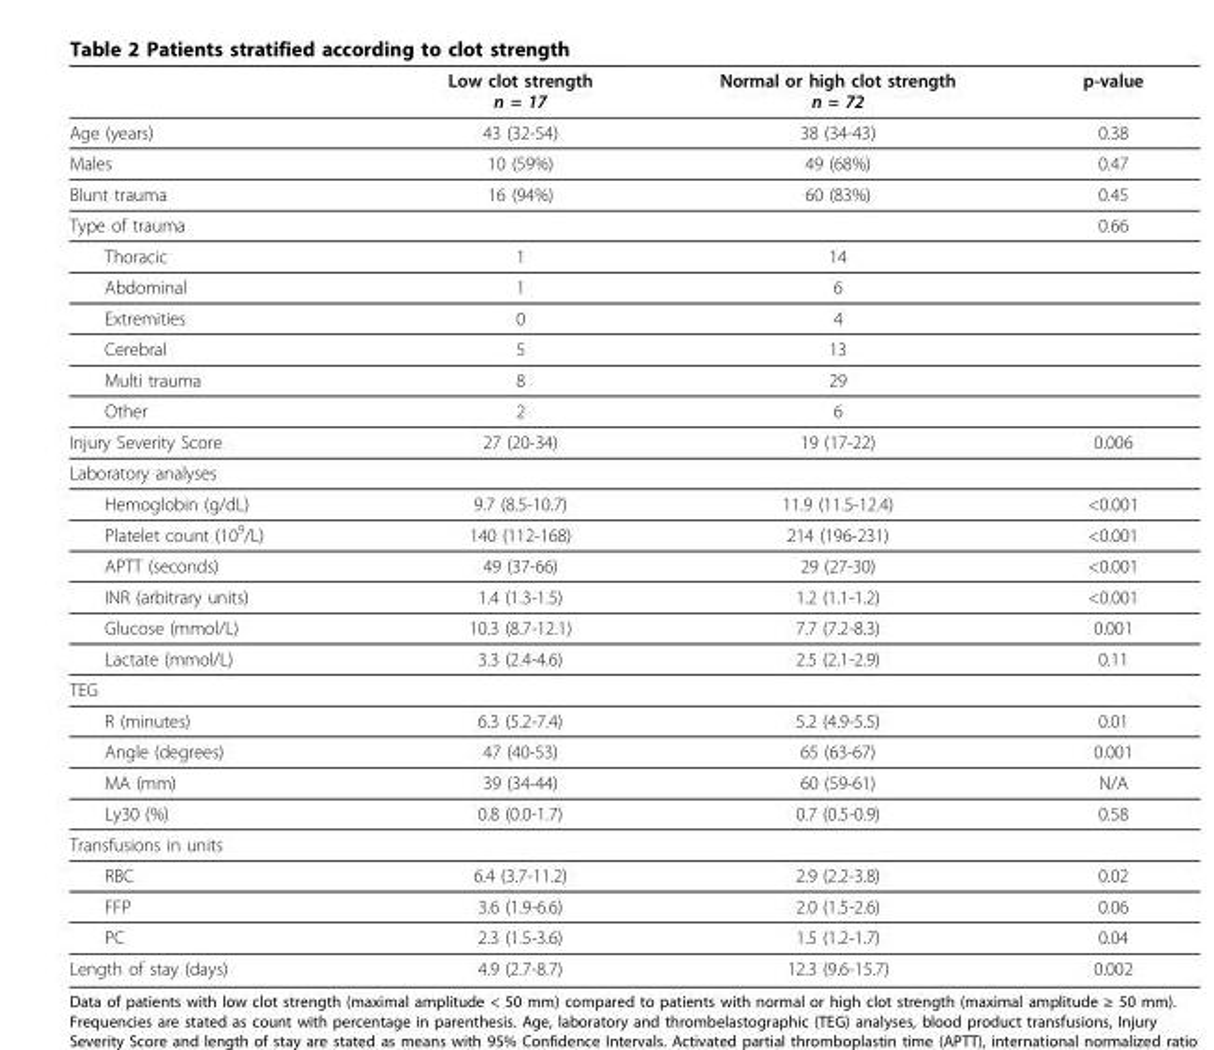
<table><thead><tr><td></td><td>Low clot strength n = 17</td><td>Normal or high clot strength n = 72</td><td>p-value</td></tr></thead><tbody><tr><td>Age (years)</td><td>43 (32-54)</td><td>38 (34-43)</td><td>0.38</td></tr><tr><td>Males</td><td>10 (59%)</td><td>49 (68%)</td><td>0.47</td></tr><tr><td>Blunt trauma</td><td>16 (94%)</td><td>60 (83%)</td><td>0.45</td></tr><tr><td>Type of trauma</td><td></td><td></td><td>0.66</td></tr><tr><td>Thoracic</td><td>1</td><td>14</td><td></td></tr><tr><td>Abdominal</td><td>1</td><td>6</td><td></td></tr><tr><td>Extremities</td><td>0</td><td>4</td><td></td></tr><tr><td>Cerebral</td><td>5</td><td>13</td><td></td></tr><tr><td>Multi trauma</td><td>8</td><td>29</td><td></td></tr><tr><td>Other</td><td>2</td><td>6</td><td></td></tr><tr><td>Injury Severity Score</td><td>27 (20-34)</td><td>19 (17-22)</td><td>0.006</td></tr><tr><td colspan="4">Laboratory analyses</td></tr><tr><td>Hemoglobin (g/dL)</td><td>9.7 (8.5-10.7)</td><td>11.9 (11.5-12.4)</td><td>&lt;0.001</td></tr><tr><td>Platelet count (10<sup>9</sup>/L)</td><td>140 (112-168)</td><td>214 (196-231)</td><td>&lt;0.001</td></tr><tr><td>APTT (seconds)</td><td>49 (37-66)</td><td>29 (27-30)</td><td>&lt;0.001</td></tr><tr><td>INR (arbitrary units)</td><td>1.4 (1.3-1.5)</td><td>1.2 (1.1-1.2)</td><td>&lt;0.001</td></tr><tr><td>Glucose (mmol/L)</td><td>10.3 (8.7-12.1)</td><td>7.7 (7.2-8.3)</td><td>0.001</td></tr><tr><td>Lactate (mmol/L)</td><td>3.3 (2.4-4.6)</td><td>2.5 (2.1-2.9)</td><td>0.11</td></tr><tr><td colspan="4">TEG</td></tr><tr><td>R (minutes)</td><td>6.3 (5.2-7.4)</td><td>5.2 (4.9-5.5)</td><td>0.01</td></tr><tr><td>Angle (degrees)</td><td>47 (40-53)</td><td>65 (63-67)</td><td>0.001</td></tr><tr><td>MA (mm)</td><td>39 (34-44)</td><td>60 (59-61)</td><td>N/A</td></tr><tr><td>Ly30 (%)</td><td>0.8 (0.0-1.7)</td><td>0.7 (0.5-0.9)</td><td>0.58</td></tr><tr><td colspan="4">Transfusions in units</td></tr><tr><td>RBC</td><td>6.4 (3.7-11.2)</td><td>2.9 (2.2-3.8)</td><td>0.02</td></tr><tr><td>FFP</td><td>3.6 (1.9-6.6)</td><td>2.0 (1.5-2.6)</td><td>0.06</td></tr><tr><td>PC</td><td>2.3 (1.5-3.6)</td><td>1.5 (1.2-1.7)</td><td>0.04</td></tr><tr><td>Length of stay (days)</td><td>4.9 (2.7-8.7)</td><td>12.3 (9.6-15.7)</td><td>0.002</td></tr></tbody></table>